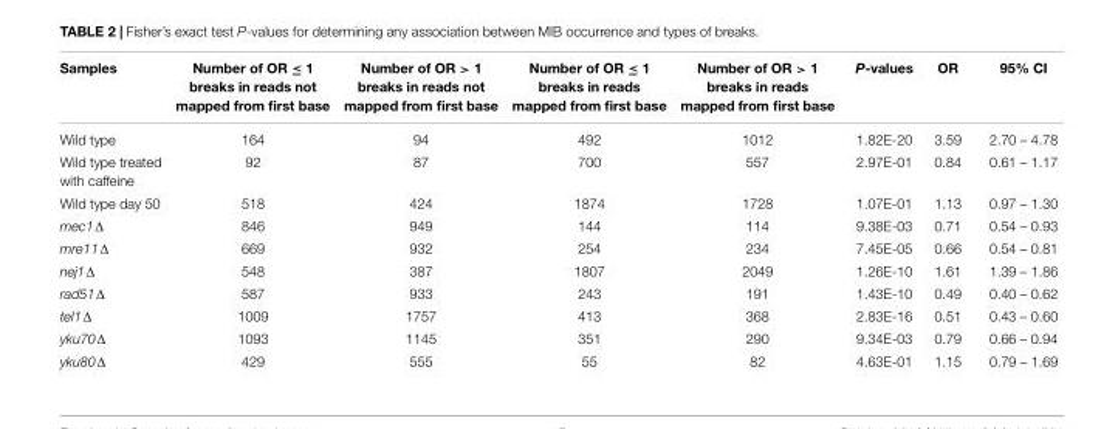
<table><thead><tr><td>Samples</td><td>Number of OR ≤ 1 breaks in reads not mapped from first base</td><td>Number of OR &gt; 1 breaks in reads not mapped from first base</td><td>Number of OR ≤ 1 breaks in reads mapped from first base</td><td>Number of OR &gt; 1 breaks in reads mapped from first base</td><td>P-values</td><td>OR</td><td>95% CI</td></tr></thead><tbody><tr><td>Wild type</td><td>164</td><td>94</td><td>492</td><td>1012</td><td>1.82E-20</td><td>3.59</td><td>2.70 – 4.78</td></tr><tr><td>Wild type treated with caffeine</td><td>92</td><td>87</td><td>700</td><td>557</td><td>2.97E-01</td><td>0.84</td><td>0.61 – 1.17</td></tr><tr><td>Wild type day 50</td><td>518</td><td>424</td><td>1874</td><td>1728</td><td>1.07E-01</td><td>1.13</td><td>0.97 – 1.30</td></tr><tr><td>mec1Δ</td><td>846</td><td>949</td><td>144</td><td>114</td><td>9.38E-03</td><td>0.71</td><td>0.54 – 0.93</td></tr><tr><td>mre11Δ</td><td>669</td><td>932</td><td>254</td><td>234</td><td>7.45E-05</td><td>0.66</td><td>0.54 – 0.81</td></tr><tr><td>nej1Δ</td><td>548</td><td>387</td><td>1807</td><td>2049</td><td>1.26E-10</td><td>1.61</td><td>1.39 – 1.86</td></tr><tr><td>rad51Δ</td><td>587</td><td>933</td><td>243</td><td>191</td><td>1.43E-10</td><td>0.49</td><td>0.40 – 0.62</td></tr><tr><td>tel1Δ</td><td>1009</td><td>1757</td><td>413</td><td>368</td><td>2.83E-16</td><td>0.51</td><td>0.43 – 0.60</td></tr><tr><td>yku70Δ</td><td>1093</td><td>1145</td><td>351</td><td>290</td><td>9.34E-03</td><td>0.79</td><td>0.66 – 0.94</td></tr><tr><td>yku80Δ</td><td>429</td><td>555</td><td>55</td><td>82</td><td>4.63E-01</td><td>1.15</td><td>0.79 – 1.69</td></tr></tbody></table>